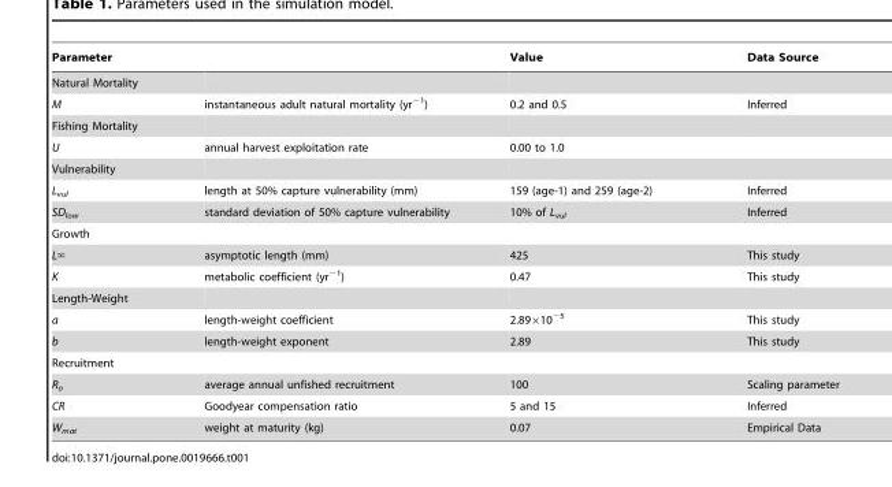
<table><thead><tr><td>Parameter</td><td></td><td>Value</td><td>Data Source</td></tr></thead><tbody><tr><td colspan="4">Natural Mortality</td></tr><tr><td>M</td><td>instantaneous adult natural mortality (yr<sup>−1</sup>)</td><td>0.2 and 0.5</td><td>Inferred</td></tr><tr><td colspan="4">Fishing Mortality</td></tr><tr><td>U</td><td>annual harvest exploitation rate</td><td>0.00 to 1.0</td><td></td></tr><tr><td colspan="4">Vulnerability</td></tr><tr><td>L<sub>vul</sub></td><td>length at 50% capture vulnerability (mm)</td><td>159 (age-1) and 259 (age-2)</td><td>Inferred</td></tr><tr><td>SD<sub>low</sub></td><td>standard deviation of 50% capture vulnerability</td><td>10% of L<sub>vul</sub></td><td>Inferred</td></tr><tr><td colspan="4">Growth</td></tr><tr><td>L‘</td><td>asymptotic length (mm)</td><td>425</td><td>This study</td></tr><tr><td>K</td><td>metabolic coefficient (yr<sup>−1</sup>)</td><td>0.47</td><td>This study</td></tr><tr><td colspan="4">Length-Weight</td></tr><tr><td>a</td><td>length-weight coefficient</td><td>2.89×10<sup>−5</sup></td><td>This study</td></tr><tr><td>b</td><td>length-weight exponent</td><td>2.89</td><td>This study</td></tr><tr><td colspan="4">Recruitment</td></tr><tr><td>R<sub>o</sub></td><td>average annual unfished recruitment</td><td>100</td><td>Scaling parameter</td></tr><tr><td>CR</td><td>Goodyear compensation ratio</td><td>5 and 15</td><td>Inferred</td></tr><tr><td>W<sub>mat</sub></td><td>weight at maturity (kg)</td><td>0.07</td><td>Empirical Data</td></tr></tbody></table>